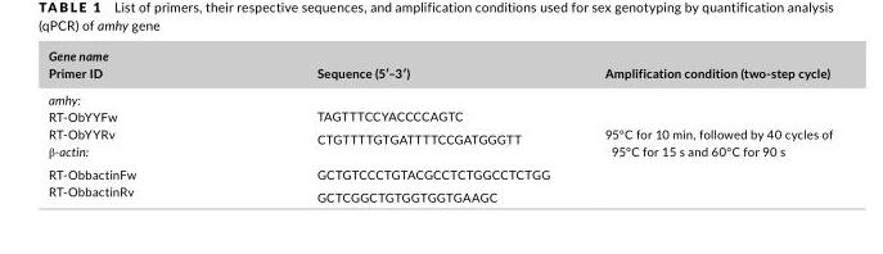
<table><thead><tr><td>Gene name Primer ID</td><td>Sequence (5′–3′)</td><td>Amplification condition (two- step cycle)</td></tr></thead><tbody><tr><td rowspan="2">amhy: RT- ObYYFw RT- ObYYRv β-actin:</td><td>TAGTTTCCYACCCCAGTC</td><td rowspan="2">95°C for 10 min, followed by 40 cycles of 95°C for 15 s and 60°C for 90 s</td></tr><tr><td>CTGTTTTGTGATTTTCCGATGGGTT</td></tr><tr><td rowspan="2">RT- ObbactinFw RT- ObbactinRv</td><td>GCTGTCCCTGTACGCCTCTGGCCTCTGG</td><td></td></tr><tr><td>GCTCGGCTGTGGTGGTGAAGC</td><td></td></tr></tbody></table>